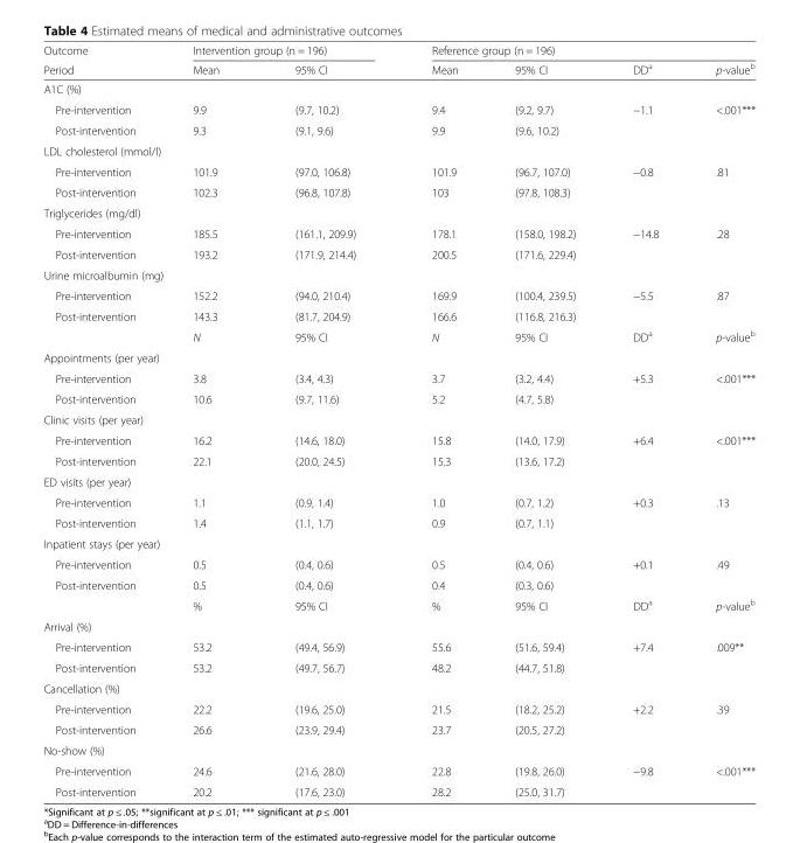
<table><thead><tr><td rowspan="2">Outcome Period</td><td colspan="2">Intervention group (n = 196)</td><td colspan="4">Reference group (n = 196)</td></tr><tr><td>Mean</td><td>95% CI</td><td>Mean</td><td>95% CI</td><td>DD<sup>a</sup></td><td>p-value<sup>b</sup></td></tr></thead><tbody><tr><td colspan="7">A1C (%)</td></tr><tr><td>Pre-intervention</td><td>9.9</td><td>(9.7, 10.2)</td><td>9.4</td><td>(9.2, 9.7)</td><td rowspan="2">−1.1</td><td rowspan="2">&lt;.001***</td></tr><tr><td>Post-intervention</td><td>9.3</td><td>(9.1, 9.6)</td><td>9.9</td><td>(9.6, 10.2)</td></tr><tr><td colspan="7">LDL cholesterol (mmol/l)</td></tr><tr><td>Pre-intervention</td><td>101.9</td><td>(97.0, 106.8)</td><td>101.9</td><td>(96.7, 107.0)</td><td rowspan="2">−0.8</td><td rowspan="2">.81</td></tr><tr><td>Post-intervention</td><td>102.3</td><td>(96.8, 107.8)</td><td>103</td><td>(97.8, 108.3)</td></tr><tr><td colspan="7">Triglycerides (mg/dl)</td></tr><tr><td>Pre-intervention</td><td>185.5</td><td>(161.1, 209.9)</td><td>178.1</td><td>(158.0, 198.2)</td><td rowspan="2">−14.8</td><td rowspan="2">.28</td></tr><tr><td>Post-intervention</td><td>193.2</td><td>(171.9, 214.4)</td><td>200.5</td><td>(171.6, 229.4)</td></tr><tr><td colspan="7">Urine microalbumin (mg)</td></tr><tr><td>Pre-intervention</td><td>152.2</td><td>(94.0, 210.4)</td><td>169.9</td><td>(100.4, 239.5)</td><td rowspan="2">−5.5</td><td rowspan="2">.87</td></tr><tr><td rowspan="2">Post-intervention</td><td>143.3</td><td>(81.7, 204.9)</td><td>166.6</td><td>(116.8, 216.3)</td></tr><tr><td>N</td><td>95% CI</td><td>N</td><td>95% CI</td><td>DD<sup>a</sup></td><td>p-value<sup>b</sup></td></tr><tr><td colspan="7">Appointments (per year)</td></tr><tr><td>Pre-intervention</td><td>3.8</td><td>(3.4, 4.3)</td><td>3.7</td><td>(3.2, 4.4)</td><td rowspan="2">+5.3</td><td rowspan="2">&lt;.001***</td></tr><tr><td>Post-intervention</td><td>10.6</td><td>(9.7, 11.6)</td><td>5.2</td><td>(4.7, 5.8)</td></tr><tr><td colspan="7">Clinic visits (per year)</td></tr><tr><td>Pre-intervention</td><td>16.2</td><td>(14.6, 18.0)</td><td>15.8</td><td>(14.0, 17.9)</td><td rowspan="2">+6.4</td><td rowspan="2">&lt;.001***</td></tr><tr><td>Post-intervention</td><td>22.1</td><td>(20.0, 24.5)</td><td>15.3</td><td>(13.6, 17.2)</td></tr><tr><td colspan="7">ED visits (per year)</td></tr><tr><td>Pre-intervention</td><td>1.1</td><td>(0.9, 1.4)</td><td>1.0</td><td>(0.7, 1.2)</td><td rowspan="2">+0.3</td><td rowspan="2">.13</td></tr><tr><td>Post-intervention</td><td>1.4</td><td>(1.1, 1.7)</td><td>0.9</td><td>(0.7, 1.1)</td></tr><tr><td colspan="7">Inpatient stays (per year)</td></tr><tr><td>Pre-intervention</td><td>0.5</td><td>(0.4, 0.6)</td><td>0.5</td><td>(0.4, 0.6)</td><td rowspan="2">+0.1</td><td rowspan="2">.49</td></tr><tr><td rowspan="2">Post-intervention</td><td>0.5</td><td>(0.4, 0.6)</td><td>0.4</td><td>(0.3, 0.6)</td></tr><tr><td>%</td><td>95% CI</td><td>%</td><td>95% CI</td><td>DD<sup>a</sup></td><td>p-value<sup>b</sup></td></tr><tr><td colspan="7">Arrival (%)</td></tr><tr><td>Pre-intervention</td><td>53.2</td><td>(49.4, 56.9)</td><td>55.6</td><td>(51.6, 59.4)</td><td rowspan="2">+7.4</td><td rowspan="2">.009**</td></tr><tr><td>Post-intervention</td><td>53.2</td><td>(49.7, 56.7)</td><td>48.2</td><td>(44.7, 51.8)</td></tr><tr><td colspan="7">Cancellation (%)</td></tr><tr><td>Pre-intervention</td><td>22.2</td><td>(19.6, 25.0)</td><td>21.5</td><td>(18.2, 25.2)</td><td rowspan="2">+2.2</td><td rowspan="2">.39</td></tr><tr><td>Post-intervention</td><td>26.6</td><td>(23.9, 29.4)</td><td>23.7</td><td>(20.5, 27.2)</td></tr><tr><td colspan="7">No-show (%)</td></tr><tr><td>Pre-intervention</td><td>24.6</td><td>(21.6, 28.0)</td><td>22.8</td><td>(19.8, 26.0)</td><td rowspan="2">−9.8</td><td rowspan="2">&lt;.001***</td></tr><tr><td>Post-intervention</td><td>20.2</td><td>(17.6, 23.0)</td><td>28.2</td><td>(25.0, 31.7)</td></tr></tbody></table>